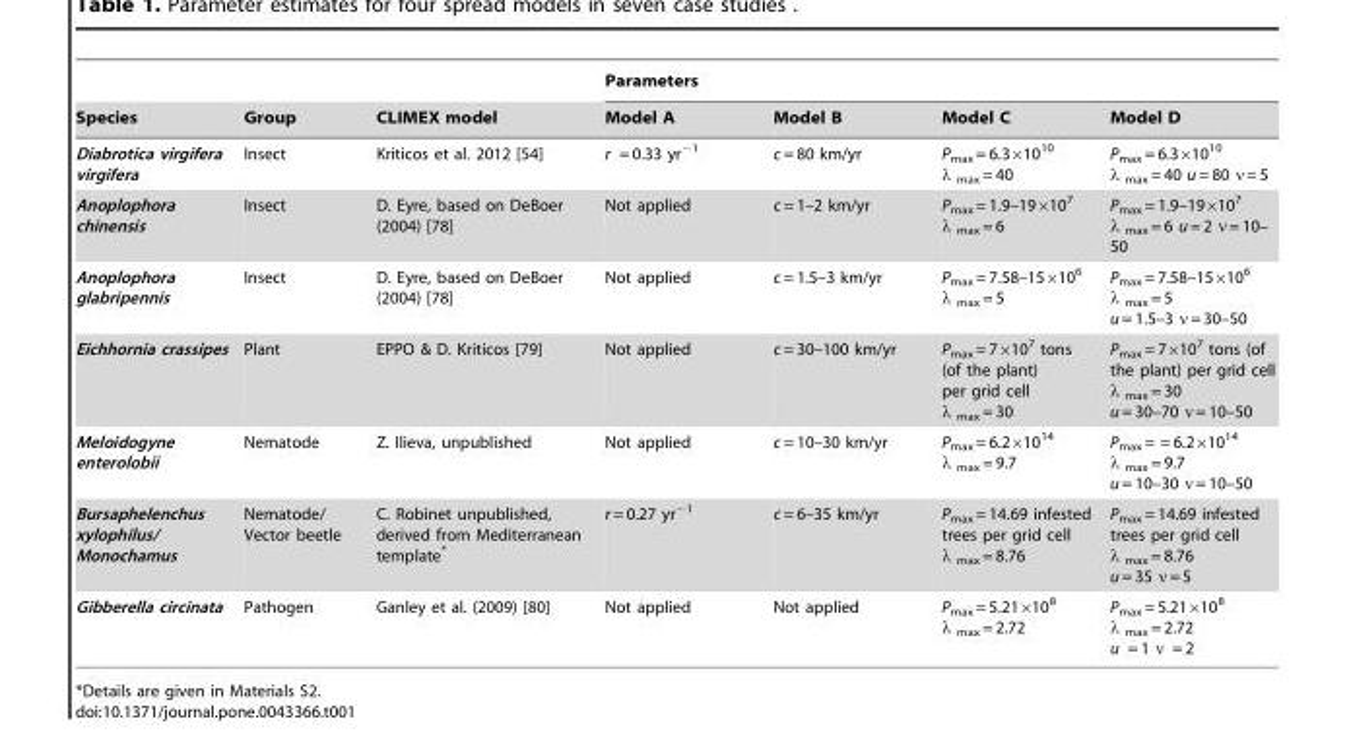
<table><thead><tr><td rowspan="2">Species</td><td rowspan="2">Group</td><td rowspan="2">CLIMEX model</td><td colspan="4">Parameters</td></tr><tr><td>Model A</td><td>Model B</td><td>Model C</td><td>Model D</td></tr></thead><tbody><tr><td>Diabrotica virgifera virgifera</td><td>Insect</td><td>Kriticos et al. 2012 [54]</td><td>r = 0.33 yr<sup>−1</sup></td><td>c = 80 km/yr</td><td>P<sub>max</sub> = 6.3×10<sup>10</sup> λ <sub>max</sub> = 40</td><td>P<sub>max</sub> = 6.3×10<sup>10</sup> λ <sub>max</sub> = 40 u = 80 ν = 5</td></tr><tr><td>Anoplophora chinensis</td><td>Insect</td><td>D. Eyre, based on DeBoer (2004) [78]</td><td>Not applied</td><td>c = 1–2 km/yr</td><td>P<sub>max</sub> = 1.9–19×10<sup>7</sup> λ <sub>max</sub> = 6</td><td>P<sub>max</sub> = 1.9–19×10<sup>7</sup> λ <sub>max</sub> = 6 u = 2 ν = 10– 50</td></tr><tr><td>Anoplophora glabripennis</td><td>Insect</td><td>D. Eyre, based on DeBoer (2004) [78]</td><td>Not applied</td><td>c = 1.5–3 km/yr</td><td>P<sub>max</sub> = 7.58–15×10<sup>6</sup> λ <sub>max</sub> = 5</td><td>P<sub>max</sub> = 7.58–15×10<sup>6</sup> λ <sub>max</sub> = 5 u = 1.5–3 ν = 30–50</td></tr><tr><td>Eichhornia crassipes</td><td>Plant</td><td>EPPO &amp; D. Kriticos [79]</td><td>Not applied</td><td>c = 30–100 km/yr</td><td>P<sub>max</sub> = 7×10<sup>7</sup> tons (of the plant) per grid cell λ <sub>max</sub> = 30</td><td>P<sub>max</sub> = 7×10<sup>7</sup> tons (of the plant) per grid cell λ <sub>max</sub> = 30 u = 30–70 ν = 10–50</td></tr><tr><td>Meloidogyne enterolobii</td><td>Nematode</td><td>Z. Ilieva, unpublished</td><td>Not applied</td><td>c = 10–30 km/yr</td><td>P<sub>max</sub> = 6.2×10<sup>14</sup> λ <sub>max</sub> = 9.7</td><td>P<sub>max</sub> = = 6.2×10<sup>14</sup> λ <sub>max</sub> = 9.7 u = 10–30 ν = 10–50</td></tr><tr><td>Bursaphelenchus xylophilus/ Monochamus</td><td>Nematode/ Vector beetle</td><td>C. Robinet unpublished, derived from Mediterranean template*</td><td>r = 0.27 yr<sup>−1</sup></td><td>c = 6–35 km/yr</td><td>P<sub>max</sub> = 14.69 infested trees per grid cell λ <sub>max</sub> = 8.76</td><td>P<sub>max</sub> = 14.69 infested trees per grid cell λ <sub>max</sub> = 8.76 u = 35 ν = 5</td></tr><tr><td>Gibberella circinata</td><td>Pathogen</td><td>Ganley et al. (2009) [80]</td><td>Not applied</td><td>Not applied</td><td>P<sub>max</sub> = 5.21×10<sup>8</sup> λ <sub>max</sub> = 2.72</td><td>P<sub>max</sub> = 5.21×10<sup>8</sup> λ <sub>max</sub> = 2.72 u = 1 ν = 2</td></tr></tbody></table>